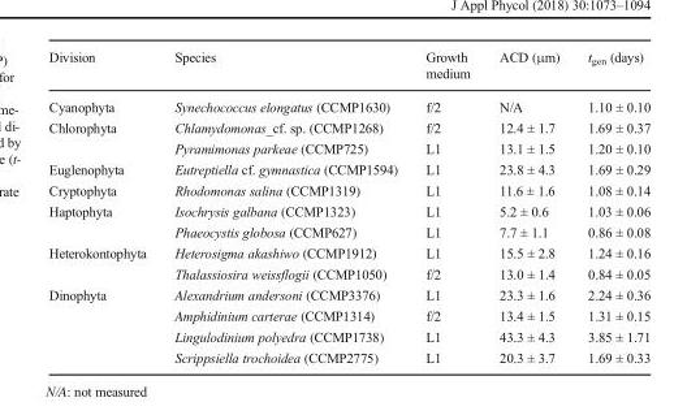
<table><thead><tr><td>Division</td><td>Species</td><td>Growth medium</td><td>ACD (μm)</td><td>t<sub>gen</sub> (days)</td></tr></thead><tbody><tr><td>Cyanophyta</td><td>Synechococcus elongatus (CCMP1630)</td><td>f/2</td><td>N/A</td><td>1.10 ± 0.10</td></tr><tr><td rowspan="2">Chlorophyta</td><td>Chlamydomonas_cf. sp. (CCMP1268)</td><td>f/2</td><td>12.4 ± 1.7</td><td>1.69 ± 0.37</td></tr><tr><td>Pyramimonas parkeae (CCMP725)</td><td>L1</td><td>13.1 ± 1.5</td><td>1.20 ± 0.10</td></tr><tr><td>Euglenophyta</td><td>Eutreptiella cf. gymnastica (CCMP1594)</td><td>L1</td><td>23.8 ± 4.3</td><td>1.69 ± 0.29</td></tr><tr><td>Cryptophyta</td><td>Rhodomonas salina (CCMP1319)</td><td>L1</td><td>11.6 ± 1.6</td><td>1.08 ± 0.14</td></tr><tr><td rowspan="2">Haptophyta</td><td>Isochrysis galbana (CCMP1323)</td><td>L1</td><td>5.2 ± 0.6</td><td>1.03 ± 0.06</td></tr><tr><td>Phaeocystis globosa (CCMP627)</td><td>L1</td><td>7.7 ± 1.1</td><td>0.86 ± 0.08</td></tr><tr><td rowspan="2">Heterokontophyta</td><td>Heterosigma akashiwo (CCMP1912)</td><td>L1</td><td>15.5 ± 2.8</td><td>1.24 ± 0.16</td></tr><tr><td>Thalassiosira weissflogii (CCMP1050)</td><td>f/2</td><td>13.0 ± 1.4</td><td>0.84 ± 0.05</td></tr><tr><td rowspan="4">Dinophyta</td><td>Alexandrium andersoni (CCMP3376)</td><td>L1</td><td>23.3 ± 1.6</td><td>2.24 ± 0.36</td></tr><tr><td>Amphidinium carterae (CCMP1314)</td><td>f/2</td><td>13.4 ± 1.5</td><td>1.31 ± 0.15</td></tr><tr><td>Lingulodinium polyedra (CCMP1738)</td><td>L1</td><td>43.3 ± 4.3</td><td>3.85 ± 1.71</td></tr><tr><td>Scrippsiella trochoidea (CCMP2775)</td><td>L1</td><td>20.3 ± 3.7</td><td>1.69 ± 0.33</td></tr></tbody></table>